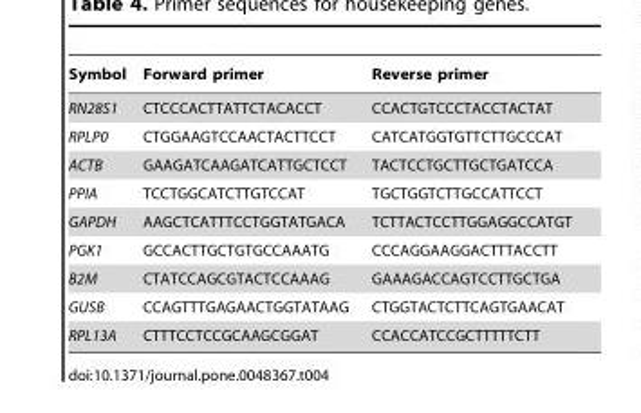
<table><thead><tr><td>Symbol</td><td>Forward primer</td><td>Reverse primer</td></tr></thead><tbody><tr><td>RN28S1</td><td>CTCCCACTTATTCTACACCT</td><td>CCACTGTCCCTACCTACTAT</td></tr><tr><td>RPLP0</td><td>CTGGAAGTCCAACTACTTCCT</td><td>CATCATGGTGTTCTTGCCCAT</td></tr><tr><td>ACTB</td><td>GAAGATCAAGATCATTGCTCCT</td><td>TACTCCTGCTTGCTGATCCA</td></tr><tr><td>PPIA</td><td>TCCTGGCATCTTGTCCAT</td><td>TGCTGGTCTTGCCATTCCT</td></tr><tr><td>GAPDH</td><td>AAGCTCATTTCCTGGTATGACA</td><td>TCTTACTCCTTGGAGGCCATGT</td></tr><tr><td>PGK1</td><td>GCCACTTGCTGTGCCAAATG</td><td>CCCAGGAAGGACTTTACCTT</td></tr><tr><td>B2M</td><td>CTATCCAGCGTACTCCAAAG</td><td>GAAAGACCAGTCCTTGCTGA</td></tr><tr><td>GUSB</td><td>CCAGTTTGAGAACTGGTATAAG</td><td>CTGGTACTCTTCAGTGAACAT</td></tr><tr><td>RPL13A</td><td>CTTTCCTCCGCAAGCGGAT</td><td>CCACCATCCGCTTTTTCTT</td></tr></tbody></table>